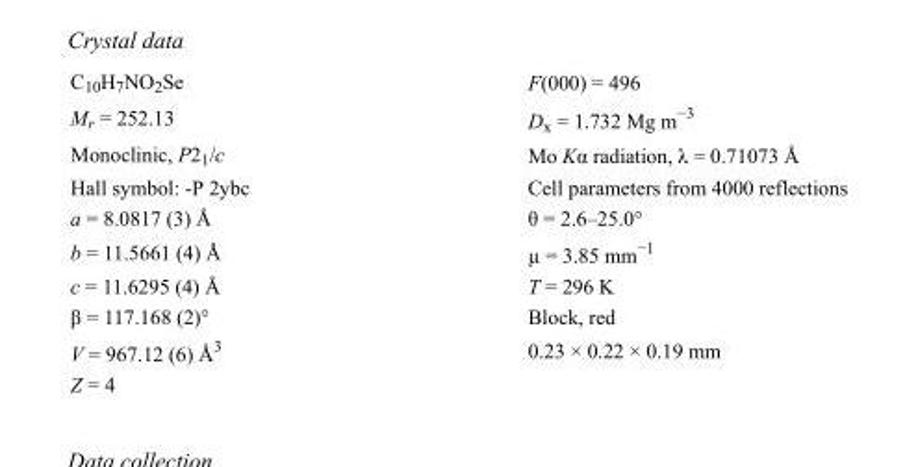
<table><tbody><tr><td>C<sub>10</sub>H<sub>7</sub>NO<sub>2</sub>Se</td><td>F(000) = 496</td></tr><tr><td>M<sub>r</sub> = 252.13</td><td>D<sub>x</sub> = 1.732 Mg m<sup>−3</sup></td></tr><tr><td>Monoclinic, P2<sub>1</sub>/c</td><td>Mo Kα radiation, λ = 0.71073 Å</td></tr><tr><td>Hall symbol: -P 2ybc</td><td>Cell parameters from 4000 reflections</td></tr><tr><td>a = 8.0817 (3) Å</td><td>θ = 2.6–25.0°</td></tr><tr><td>b = 11.5661 (4) Å</td><td>µ = 3.85 mm<sup>−1</sup></td></tr><tr><td>c = 11.6295 (4) Å</td><td>T = 296 K</td></tr><tr><td>β = 117.168 (2)°</td><td>Block, red</td></tr><tr><td>V = 967.12 (6) Å<sup>3</sup></td><td>0.23 × 0.22 × 0.19 mm</td></tr><tr><td>Z = 4</td><td></td></tr></tbody></table>